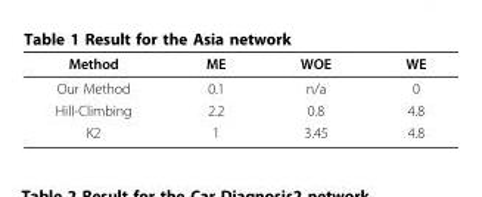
<table><thead><tr><td>Method</td><td>ME</td><td>WOE</td><td>WE</td></tr></thead><tbody><tr><td>Our Method</td><td>0.1</td><td>n/a</td><td>0</td></tr><tr><td>Hill-Climbing</td><td>2.2</td><td>0.8</td><td>4.8</td></tr><tr><td>K2</td><td>1</td><td>3.45</td><td>4.8</td></tr></tbody></table>